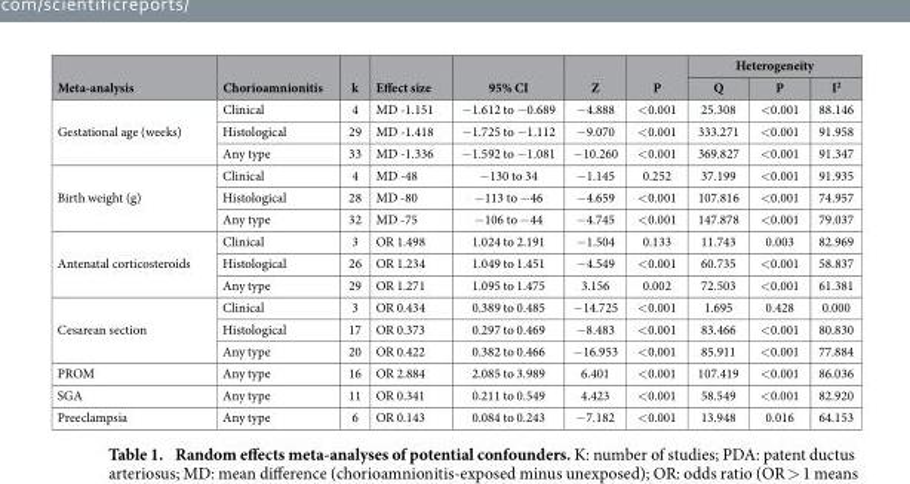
<table><thead><tr><td rowspan="2">Meta-analysis</td><td rowspan="2">Chorioamnionitis</td><td rowspan="2">k</td><td rowspan="2">Effect size</td><td rowspan="2">95% CI</td><td rowspan="2">Z</td><td rowspan="2">P</td><td colspan="3">Heterogeneity</td></tr><tr><td>Q</td><td>P</td><td>I<sup>2</sup></td></tr></thead><tbody><tr><td rowspan="3">Gestational age (weeks)</td><td>Clinical</td><td>4</td><td>MD -1.151</td><td>−1.612 to − 0.689</td><td>− 4.888</td><td>&lt; 0.001</td><td>25.308</td><td>&lt; 0.001</td><td>88.146</td></tr><tr><td>Histological</td><td>29</td><td>MD -1.418</td><td>− 1.725 to − 1.112</td><td>− 9.070</td><td>&lt; 0.001</td><td>333.271</td><td>&lt; 0.001</td><td>91.958</td></tr><tr><td>Any type</td><td>33</td><td>MD -1.336</td><td>− 1.592 to − 1.081</td><td>− 10.260</td><td>&lt; 0.001</td><td>369.827</td><td>&lt; 0.001</td><td>91.347</td></tr><tr><td rowspan="3">Birth weight (g)</td><td>Clinical</td><td>4</td><td>MD -48</td><td>− 130 to 34</td><td>− 1.145</td><td>0.252</td><td>37.199</td><td>&lt; 0.001</td><td>91.935</td></tr><tr><td>Histological</td><td>28</td><td>MD -80</td><td>− 113 to − 46</td><td>− 4.659</td><td>&lt; 0.001</td><td>107.816</td><td>&lt; 0.001</td><td>74.957</td></tr><tr><td>Any type</td><td>32</td><td>MD -75</td><td>− 106 to − 44</td><td>− 4.745</td><td>&lt; 0.001</td><td>147.878</td><td>&lt; 0.001</td><td>79.037</td></tr><tr><td rowspan="3">Antenatal corticosteroids</td><td>Clinical</td><td>3</td><td>OR 1.498</td><td>1.024 to 2.191</td><td>− 1.504</td><td>0.133</td><td>11.743</td><td>0.003</td><td>82.969</td></tr><tr><td>Histological</td><td>26</td><td>OR 1.234</td><td>1.049 to 1.451</td><td>− 4.549</td><td>&lt; 0.001</td><td>60.735</td><td>&lt; 0.001</td><td>58.837</td></tr><tr><td>Any type</td><td>29</td><td>OR 1.271</td><td>1.095 to 1.475</td><td>3.156</td><td>0.002</td><td>72.503</td><td>&lt; 0.001</td><td>61.381</td></tr><tr><td rowspan="3">Cesarean section</td><td>Clinical</td><td>3</td><td>OR 0.434</td><td>0.389 to 0.485</td><td>− 14.725</td><td>&lt; 0.001</td><td>1.695</td><td>0.428</td><td>0.000</td></tr><tr><td>Histological</td><td>17</td><td>OR 0.373</td><td>0.297 to 0.469</td><td>− 8.483</td><td>&lt; 0.001</td><td>83.466</td><td>&lt; 0.001</td><td>80.830</td></tr><tr><td>Any type</td><td>20</td><td>OR 0.422</td><td>0.382 to 0.466</td><td>− 16.953</td><td>&lt; 0.001</td><td>85.911</td><td>&lt; 0.001</td><td>77.884</td></tr><tr><td>PROM</td><td>Any type</td><td>16</td><td>OR 2.884</td><td>2.085 to 3.989</td><td>6.401</td><td>&lt; 0.001</td><td>107.419</td><td>&lt; 0.001</td><td>86.036</td></tr><tr><td>SGA</td><td>Any type</td><td>11</td><td>OR 0.341</td><td>0.211 to 0.549</td><td>4.423</td><td>&lt; 0.001</td><td>58.549</td><td>&lt; 0.001</td><td>82.920</td></tr><tr><td>Preeclampsia</td><td>Any type</td><td>6</td><td>OR 0.143</td><td>0.084 to 0.243</td><td>− 7.182</td><td>&lt; 0.001</td><td>13.948</td><td>0.016</td><td>64.153</td></tr></tbody></table>